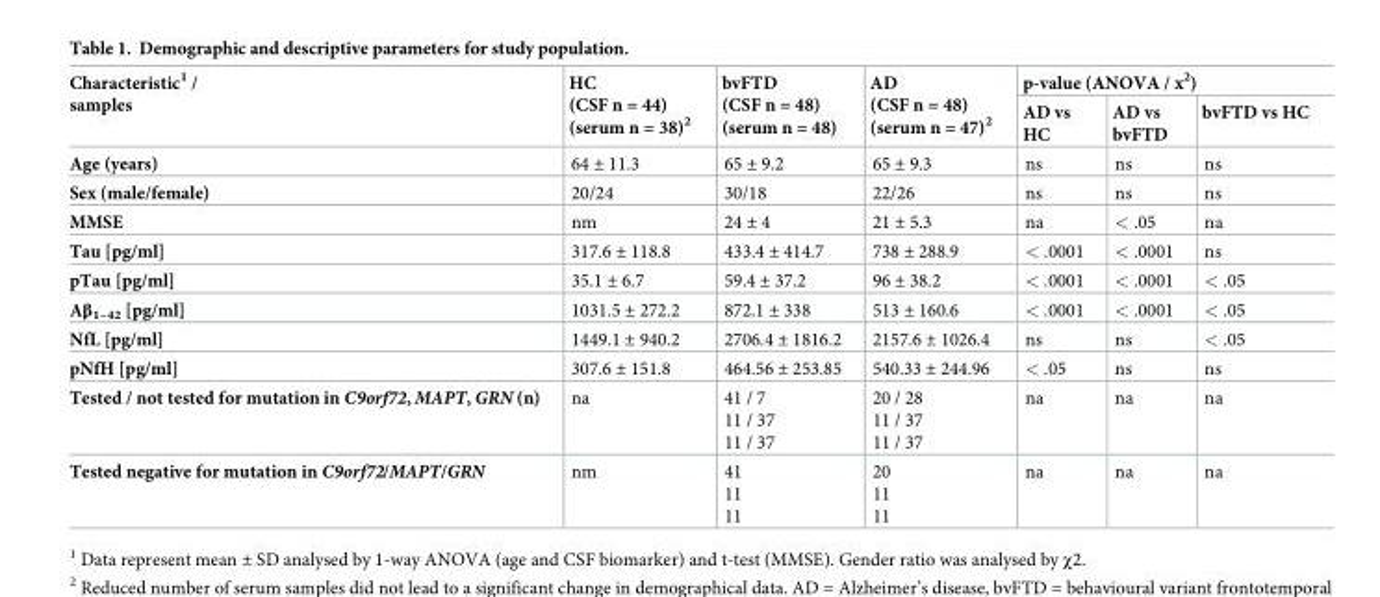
<table><thead><tr><td rowspan="2">Characteristic<sup>1</sup> / samples</td><td rowspan="2">HC (CSF n = 44) (serum n = 38)<sup>2</sup></td><td rowspan="2">bvFTD (CSF n = 48) (serum n = 48)</td><td rowspan="2">AD (CSF n = 48) (serum n = 47)<sup>2</sup></td><td colspan="3">p-value (ANOVA / x<sup>2</sup>)</td></tr><tr><td>AD vs HC</td><td>AD vs bvFTD</td><td>bvFTD vs HC</td></tr></thead><tbody><tr><td>Age (years)</td><td>64 ± 11.3</td><td>65 ± 9.2</td><td>65 ± 9.3</td><td>ns</td><td>ns</td><td>ns</td></tr><tr><td>Sex (male/female)</td><td>20/24</td><td>30/18</td><td>22/26</td><td>ns</td><td>ns</td><td>ns</td></tr><tr><td>MMSE</td><td>nm</td><td>24 ± 4</td><td>21 ± 5.3</td><td>na</td><td>&lt; .05</td><td>na</td></tr><tr><td>Tau [pg/ml]</td><td>317.6 ± 118.8</td><td>433.4 ± 414.7</td><td>738 ± 288.9</td><td>&lt; .0001</td><td>&lt; .0001</td><td>ns</td></tr><tr><td>pTau [pg/ml]</td><td>35.1 ± 6.7</td><td>59.4 ± 37.2</td><td>96 ± 38.2</td><td>&lt; .0001</td><td>&lt; .0001</td><td>&lt; .05</td></tr><tr><td>Aβ<sub>1–42</sub> [pg/ml]</td><td>1031.5 ± 272.2</td><td>872.1 ± 338</td><td>513 ± 160.6</td><td>&lt; .0001</td><td>&lt; .0001</td><td>&lt; .05</td></tr><tr><td>NfL [pg/ml]</td><td>1449.1 ± 940.2</td><td>2706.4 ± 1816.2</td><td>2157.6 ± 1026.4</td><td>ns</td><td>ns</td><td>&lt; .05</td></tr><tr><td>pNfH [pg/ml]</td><td>307.6 ± 151.8</td><td>464.56 ± 253.85</td><td>540.33 ± 244.96</td><td>&lt; .05</td><td>ns</td><td>ns</td></tr><tr><td>Tested / not tested for mutation in C9orf72, MAPT, GRN (n)</td><td>na</td><td>41 / 7 11 / 37 11 / 37</td><td>20 / 28 11 / 37 11 / 37</td><td>na</td><td>na</td><td>na</td></tr><tr><td>Tested negative for mutation in C9orf72/MAPT/GRN</td><td>nm</td><td>41 11 11</td><td>20 11 11</td><td>na</td><td>na</td><td>na</td></tr></tbody></table>